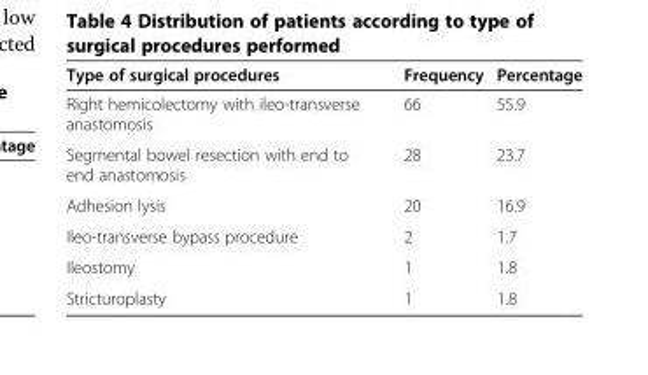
<table><thead><tr><td>Type of surgical procedures</td><td>Frequency</td><td>Percentage</td></tr></thead><tbody><tr><td>Right hemicolectomy with ileo-transverse anastomosis</td><td>66</td><td>55.9</td></tr><tr><td>Segmental bowel resection with end to end anastomosis</td><td>28</td><td>23.7</td></tr><tr><td>Adhesion lysis</td><td>20</td><td>16.9</td></tr><tr><td>Ileo-transverse bypass procedure</td><td>2</td><td>1.7</td></tr><tr><td>Ileostomy</td><td>1</td><td>1.8</td></tr><tr><td>Stricturoplasty</td><td>1</td><td>1.8</td></tr></tbody></table>